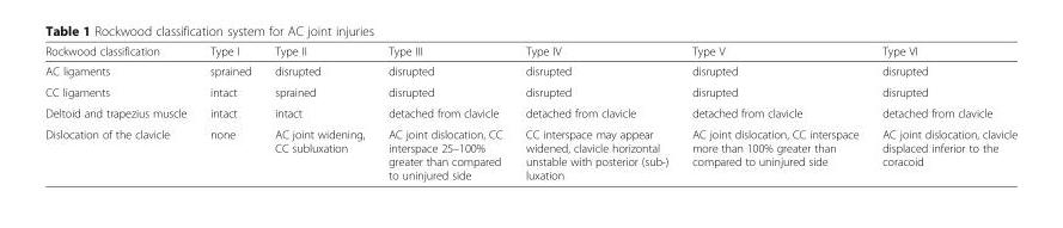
<table><thead><tr><td>Rockwood classification</td><td>Type I</td><td>Type II</td><td>Type III</td><td>Type IV</td><td>Type V</td><td>Type VI</td></tr></thead><tbody><tr><td>AC ligaments</td><td>sprained</td><td>disrupted</td><td>disrupted</td><td>disrupted</td><td>disrupted</td><td>disrupted</td></tr><tr><td>CC ligaments</td><td>intact</td><td>sprained</td><td>disrupted</td><td>disrupted</td><td>disrupted</td><td>disrupted</td></tr><tr><td>Deltoid and trapezius muscle</td><td>intact</td><td>intact</td><td>detached from clavicle</td><td>detached from clavicle</td><td>detached from clavicle</td><td>detached from clavicle</td></tr><tr><td>Dislocation of the clavicle</td><td>none</td><td>AC joint widening, CC subluxation</td><td>AC joint dislocation, CC interspace 25–100% greater than compared to uninjured side</td><td>CC interspace may appear widened, clavicle horizontal unstable with posterior (sub-) luxation</td><td>AC joint dislocation, CC interspace more than 100% greater than compared to uninjured side</td><td>AC joint dislocation, clavicle displaced inferior to the coracoid</td></tr></tbody></table>